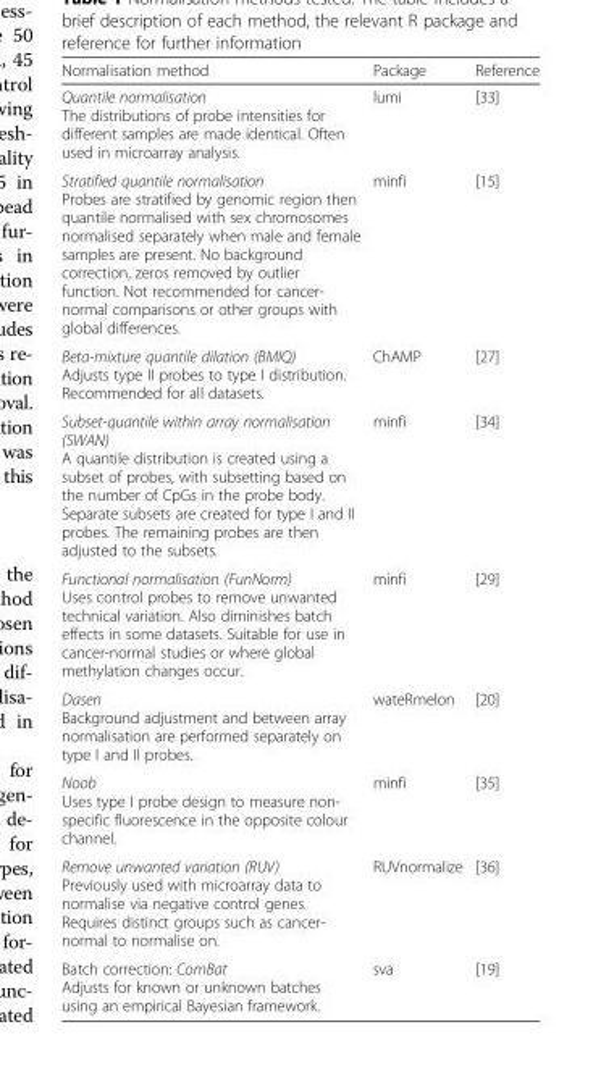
<table><thead><tr><td>Normalisation method</td><td>Package</td><td>Reference</td></tr></thead><tbody><tr><td>Quantile normalisation The distributions of probe intensities for different samples are made identical. Often used in microarray analysis.</td><td>lumi</td><td>[33]</td></tr><tr><td>Stratified quantile normalisation Probes are stratified by genomic region then quantile normalised with sex chromosomes normalised separately when male and female samples are present. No background correction, zeros removed by outlier function. Not recommended for cancer- normal comparisons or other groups with global differences.</td><td>minfi</td><td>[15]</td></tr><tr><td>Beta-mixture quantile dilation (BMIQ) Adjusts type II probes to type I distribution. Recommended for all datasets.</td><td>ChAMP</td><td>[27]</td></tr><tr><td>Subset-quantile within array normalisation (SWAN) A quantile distribution is created using a subset of probes, with subsetting based on the number of CpGs in the probe body. Separate subsets are created for type I and II probes. The remaining probes are then adjusted to the subsets.</td><td>minfi</td><td>[34]</td></tr><tr><td>Functional normalisation (FunNorm) Uses control probes to remove unwanted technical variation. Also diminishes batch effects in some datasets. Suitable for use in cancer-normal studies or where global methylation changes occur.</td><td>minfi</td><td>[29]</td></tr><tr><td>Dasen Background adjustment and between array normalisation are performed separately on type I and II probes.</td><td>wateRmelon</td><td>[20]</td></tr><tr><td>Noob Uses type I probe design to measure non- specific fluorescence in the opposite colour channel.</td><td>minfi</td><td>[35]</td></tr><tr><td>Remove unwanted variation (RUV) Previously used with microarray data to normalise via negative control genes. Requires distinct groups such as cancer- normal to normalise on.</td><td>RUVnormalize</td><td>[36]</td></tr><tr><td>Batch correction: ComBat Adjusts for known or unknown batches using an empirical Bayesian framework.</td><td>sva</td><td>[19]</td></tr></tbody></table>